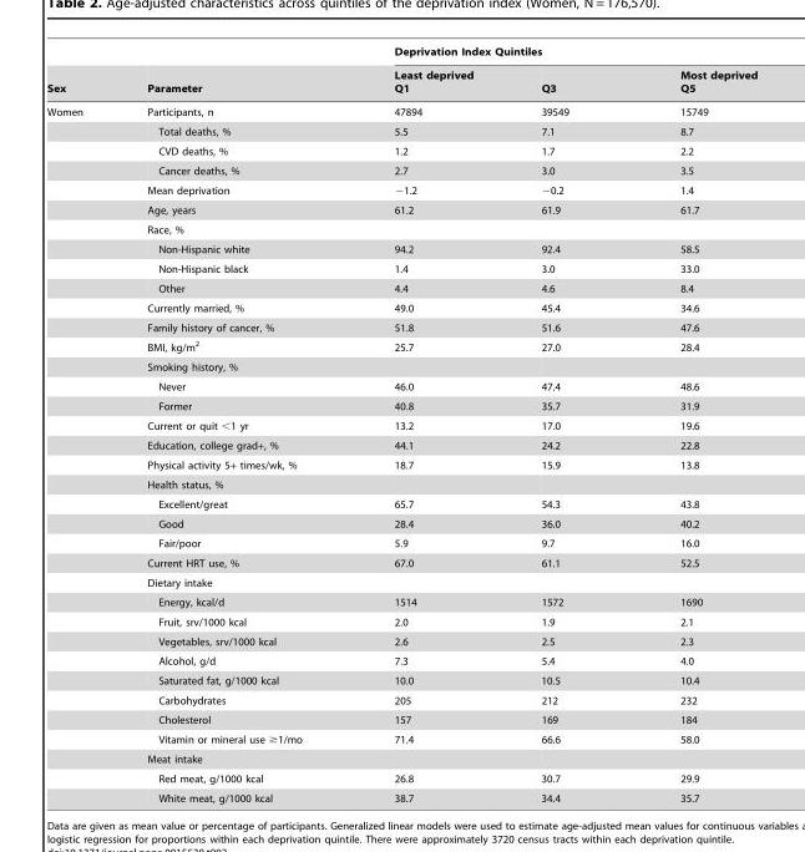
<table><thead><tr><td rowspan="2">Sex</td><td rowspan="2">Parameter</td><td colspan="3">Deprivation Index Quintiles</td></tr><tr><td>Least deprived Q1</td><td>Q3</td><td>Most deprived Q5</td></tr></thead><tbody><tr><td rowspan="36">Women</td><td>Participants, n</td><td>47894</td><td>39549</td><td>15749</td></tr><tr><td>Total deaths, %</td><td>5.5</td><td>7.1</td><td>8.7</td></tr><tr><td>CVD deaths, %</td><td>1.2</td><td>1.7</td><td>2.2</td></tr><tr><td>Cancer deaths, %</td><td>2.7</td><td>3.0</td><td>3.5</td></tr><tr><td>Mean deprivation</td><td>−1.2</td><td>−0.2</td><td>1.4</td></tr><tr><td>Age, years</td><td>61.2</td><td>61.9</td><td>61.7</td></tr><tr><td>Race, %</td><td></td><td></td><td></td></tr><tr><td>Non-Hispanic white</td><td>94.2</td><td>92.4</td><td>58.5</td></tr><tr><td>Non-Hispanic black</td><td>1.4</td><td>3.0</td><td>33.0</td></tr><tr><td>Other</td><td>4.4</td><td>4.6</td><td>8.4</td></tr><tr><td>Currently married, %</td><td>49.0</td><td>45.4</td><td>34.6</td></tr><tr><td>Family history of cancer, %</td><td>51.8</td><td>51.6</td><td>47.6</td></tr><tr><td>BMI, kg/m<sup>2</sup></td><td>25.7</td><td>27.0</td><td>28.4</td></tr><tr><td>Smoking history, %</td><td></td><td></td><td></td></tr><tr><td>Never</td><td>46.0</td><td>47.4</td><td>48.6</td></tr><tr><td>Former</td><td>40.8</td><td>35.7</td><td>31.9</td></tr><tr><td>Current or quit &lt;1 yr</td><td>13.2</td><td>17.0</td><td>19.6</td></tr><tr><td>Education, college grad+, %</td><td>44.1</td><td>24.2</td><td>22.8</td></tr><tr><td>Physical activity 5+ times/wk, %</td><td>18.7</td><td>15.9</td><td>13.8</td></tr><tr><td>Health status, %</td><td></td><td></td><td></td></tr><tr><td>Excellent/great</td><td>65.7</td><td>54.3</td><td>43.8</td></tr><tr><td>Good</td><td>28.4</td><td>36.0</td><td>40.2</td></tr><tr><td>Fair/poor</td><td>5.9</td><td>9.7</td><td>16.0</td></tr><tr><td>Current HRT use, %</td><td>67.0</td><td>61.1</td><td>52.5</td></tr><tr><td>Dietary intake</td><td></td><td></td><td></td></tr><tr><td>Energy, kcal/d</td><td>1514</td><td>1572</td><td>1690</td></tr><tr><td>Fruit, srv/1000 kcal</td><td>2.0</td><td>1.9</td><td>2.1</td></tr><tr><td>Vegetables, srv/1000 kcal</td><td>2.6</td><td>2.5</td><td>2.3</td></tr><tr><td>Alcohol, g/d</td><td>7.3</td><td>5.4</td><td>4.0</td></tr><tr><td>Saturated fat, g/1000 kcal</td><td>10.0</td><td>10.5</td><td>10.4</td></tr><tr><td>Carbohydrates</td><td>205</td><td>212</td><td>232</td></tr><tr><td>Cholesterol</td><td>157</td><td>169</td><td>184</td></tr><tr><td>Vitamin or mineral use ≥1/mo</td><td>71.4</td><td>66.6</td><td>58.0</td></tr><tr><td>Meat intake</td><td></td><td></td><td></td></tr><tr><td>Red meat, g/1000 kcal</td><td>26.8</td><td>30.7</td><td>29.9</td></tr><tr><td>White meat, g/1000 kcal</td><td>38.7</td><td>34.4</td><td>35.7</td></tr></tbody></table>